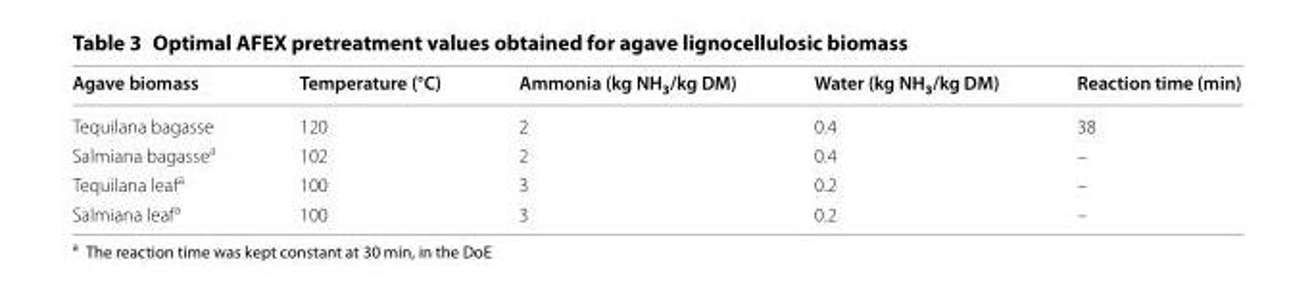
<table><thead><tr><td>Agave biomass</td><td>Temperature (°C)</td><td>Ammonia (kg NH<sub>3</sub>/kg DM)</td><td>Water (kg NH<sub>3</sub>/kg DM)</td><td>Reaction time (min)</td></tr></thead><tbody><tr><td>Tequilana bagasse</td><td>120</td><td>2</td><td>0.4</td><td>38</td></tr><tr><td>Salmiana bagasse<sup>a</sup></td><td>102</td><td>2</td><td>0.4</td><td>–</td></tr><tr><td>Tequilana leaf<sup>a</sup></td><td>100</td><td>3</td><td>0.2</td><td>–</td></tr><tr><td>Salmiana leaf<sup>a</sup></td><td>100</td><td>3</td><td>0.2</td><td>–</td></tr></tbody></table>